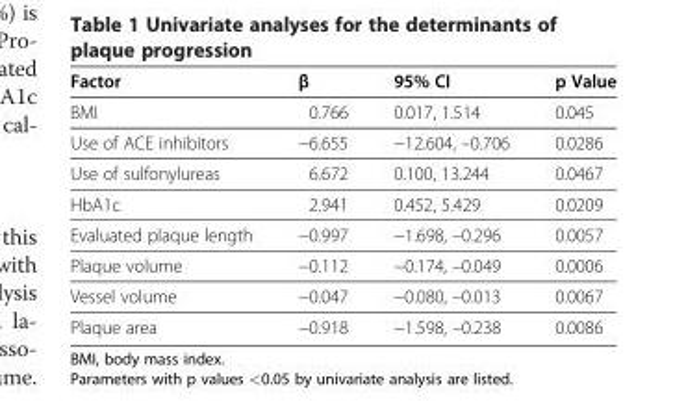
<table><thead><tr><td>Factor</td><td>β</td><td>95% CI</td><td>p Value</td></tr></thead><tbody><tr><td>BMI</td><td>0.766</td><td>0.017, 1.514</td><td>0.045</td></tr><tr><td>Use of ACE inhibitors</td><td>−6.655</td><td>−12.604, –0.706</td><td>0.0286</td></tr><tr><td>Use of sulfonylureas</td><td>6.672</td><td>0.100, 13.244</td><td>0.0467</td></tr><tr><td>HbA1c</td><td>2.941</td><td>0.452, 5.429</td><td>0.0209</td></tr><tr><td>Evaluated plaque length</td><td>−0.997</td><td>−1.698, –0.296</td><td>0.0057</td></tr><tr><td>Plaque volume</td><td>−0.112</td><td>−0.174, –0.049</td><td>0.0006</td></tr><tr><td>Vessel volume</td><td>−0.047</td><td>−0.080, –0.013</td><td>0.0067</td></tr><tr><td>Plaque area</td><td>−0.918</td><td>−1.598, –0.238</td><td>0.0086</td></tr></tbody></table>